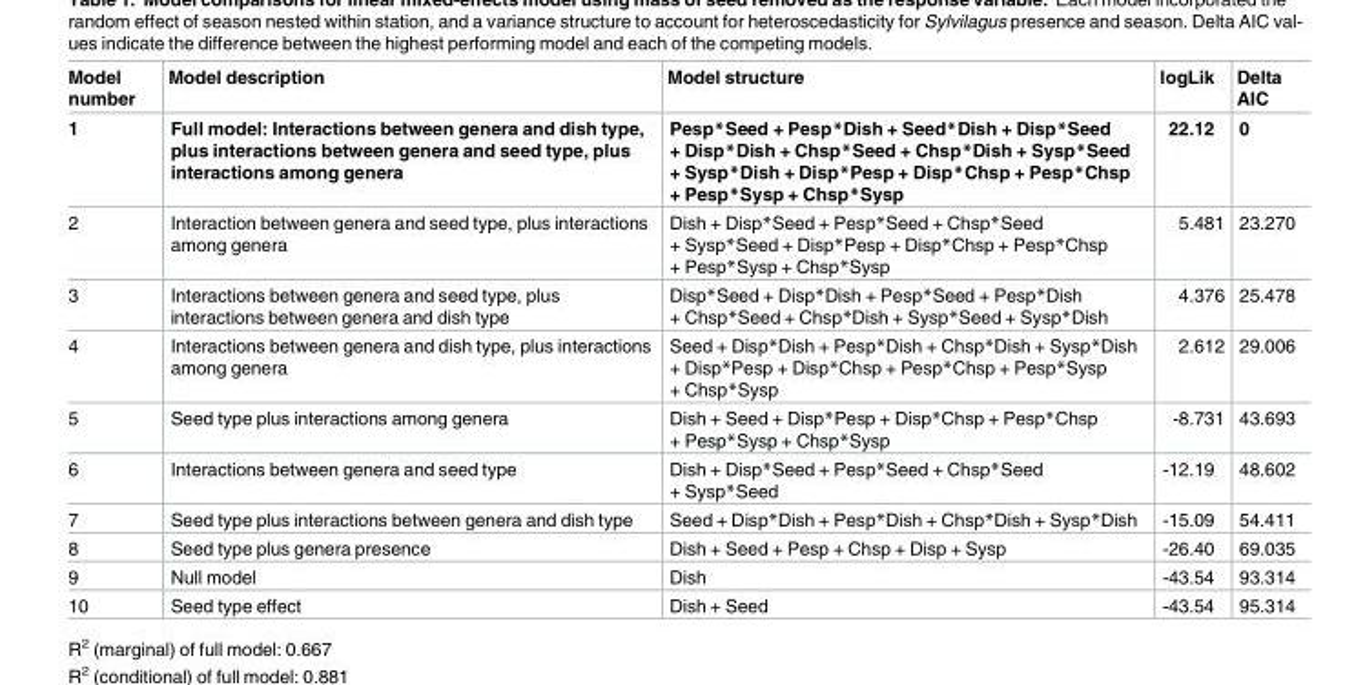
<table><thead><tr><td>Model number</td><td>Model description</td><td>Model structure</td><td>logLik</td><td>Delta AIC</td></tr></thead><tbody><tr><td>1</td><td>Full model: Interactions between genera and dish type, plus interactions between genera and seed type, plus interactions among genera</td><td>Pesp*Seed + Pesp*Dish + Seed*Dish + Disp*Seed + Disp*Dish + Chsp*Seed + Chsp*Dish + Sysp*Seed + Sysp*Dish + Disp*Pesp + Disp*Chsp + Pesp*Chsp + Pesp*Sysp + Chsp*Sysp</td><td>22.12</td><td>0</td></tr><tr><td>2</td><td>Interaction between genera and seed type, plus interactions among genera</td><td>Dish + Disp*Seed + Pesp*Seed + Chsp*Seed + Sysp*Seed + Disp*Pesp + Disp*Chsp + Pesp*Chsp + Pesp*Sysp + Chsp*Sysp</td><td>5.481</td><td>23.270</td></tr><tr><td>3</td><td>Interactions between genera and seed type, plus interactions between genera and dish type</td><td>Disp*Seed + Disp*Dish + Pesp*Seed + Pesp*Dish + Chsp*Seed + Chsp*Dish + Sysp*Seed + Sysp*Dish</td><td>4.376</td><td>25.478</td></tr><tr><td>4</td><td>Interactions between genera and dish type, plus interactions among genera</td><td>Seed + Disp*Dish + Pesp*Dish + Chsp*Dish + Sysp*Dish + Disp*Pesp + Disp*Chsp + Pesp*Chsp + Pesp*Sysp + Chsp*Sysp</td><td>2.612</td><td>29.006</td></tr><tr><td>5</td><td>Seed type plus interactions among genera</td><td>Dish + Seed + Disp*Pesp + Disp*Chsp + Pesp*Chsp + Pesp*Sysp + Chsp*Sysp</td><td>-8.731</td><td>43.693</td></tr><tr><td>6</td><td>Interactions between genera and seed type</td><td>Dish + Disp*Seed + Pesp*Seed + Chsp*Seed + Sysp*Seed</td><td>-12.19</td><td>48.602</td></tr><tr><td>7</td><td>Seed type plus interactions between genera and dish type</td><td>Seed + Disp*Dish + Pesp*Dish + Chsp*Dish + Sysp*Dish</td><td>-15.09</td><td>54.411</td></tr><tr><td>8</td><td>Seed type plus genera presence</td><td>Dish + Seed + Pesp + Chsp + Disp + Sysp</td><td>-26.40</td><td>69.035</td></tr><tr><td>9</td><td>Null model</td><td>Dish</td><td>-43.54</td><td>93.314</td></tr><tr><td>10</td><td>Seed type effect</td><td>Dish + Seed</td><td>-43.54</td><td>95.314</td></tr></tbody></table>